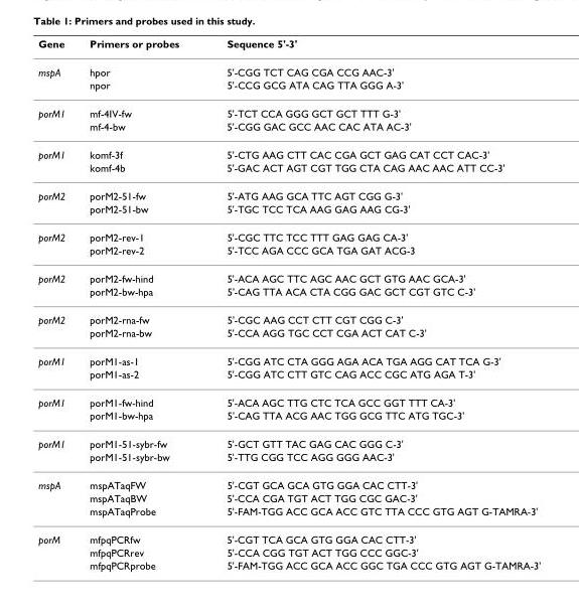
<table><thead><tr><td>Gene</td><td>Primers or probes</td><td>Sequence 5&#x27;-3&#x27;</td></tr></thead><tbody><tr><td rowspan="2">mspA</td><td>hpor</td><td>5&#x27;-CGG TCT CAG CGA CCG AAC-3&#x27;</td></tr><tr><td>npor</td><td>5&#x27;-CCG GCG ATA CAG TTA GGG A-3&#x27;</td></tr><tr><td rowspan="2">porM1</td><td>mf-4IV-fw</td><td>5&#x27;-TCT CCA GGG GCT GCT TTT G-3&#x27;</td></tr><tr><td>mf-4-bw</td><td>5&#x27;-CGG GAC GCC AAC CAC ATA AC-3&#x27;</td></tr><tr><td rowspan="2">porM1</td><td>komf-3f</td><td>5&#x27;-CTG AAG CTT CAC CGA GCT GAG CAT CCT CAC-3&#x27;</td></tr><tr><td>komf-4b</td><td>5&#x27;-GAC ACT AGT CGT TGG CTA CAG AAC AAC ATT CC-3&#x27;</td></tr><tr><td rowspan="2">porM2</td><td>porM2-51-fw</td><td>5&#x27;-ATG AAG GCA TTC AGT CGG G-3&#x27;</td></tr><tr><td>porM2-51-bw</td><td>5&#x27;-TGC TCC TCA AAG GAG AAG CG-3&#x27;</td></tr><tr><td rowspan="2">porM2</td><td>porM2-rev-1</td><td>5&#x27;-CGC TTC TCC TTT GAG GAG CA-3&#x27;</td></tr><tr><td>porM2-rev-2</td><td>5&#x27;-TCC AGA CCC GCA TGA GAT ACG-3</td></tr><tr><td rowspan="2">porM2</td><td>porM2-fw-hind</td><td>5&#x27;-ACA AGC TTC AGC AAC GCT GTG AAC GCA-3&#x27;</td></tr><tr><td>porM2-bw-hpa</td><td>5&#x27;-CAG TTA ACA CTA CGG GAC GCT CGT GTC C-3&#x27;</td></tr><tr><td rowspan="2">porM2</td><td>porM2-rna-fw</td><td>5&#x27;-CGC AAG CCT CTT CGT CGG C-3&#x27;</td></tr><tr><td>porM2-rna-bw</td><td>5&#x27;-CCA AGG TGC CCT CGA ACT CAT C-3&#x27;</td></tr><tr><td rowspan="2">porM1</td><td>porM1-as-1</td><td>5&#x27;-CGG ATC CTA GGG AGA ACA TGA AGG CAT TCA G-3&#x27;</td></tr><tr><td>porM1-as-2</td><td>5&#x27;-CGG ATC CTT GTC CAG ACC CGC ATG AGA T-3&#x27;</td></tr><tr><td rowspan="2">porM1</td><td>porM1-fw-hind</td><td>5&#x27;-ACA AGC TTG CTC TCA GCC GGT TTT CA-3&#x27;</td></tr><tr><td>porM1-bw-hpa</td><td>5&#x27;-CAG TTA ACG AAC TGG GCG TTC ATG TGC-3&#x27;</td></tr><tr><td rowspan="2">porM1</td><td>porM1-51-sybr-fw</td><td>5&#x27;-GCT GTT TAC GAG CAC GGG C-3&#x27;</td></tr><tr><td>porM1-51-sybr-bw</td><td>5&#x27;-TTG CGG TCC AGG GGG AAC-3&#x27;</td></tr><tr><td rowspan="3">mspA</td><td>mspATaqFW</td><td>5&#x27;-CGT GCA GCA GTG GGA CAC CTT-3&#x27;</td></tr><tr><td>mspATaqBW</td><td>5&#x27;-CCA CGA TGT ACT TGG CGC GAC-3&#x27;</td></tr><tr><td>mspATaqProbe</td><td>5&#x27;-FAM-TGG ACC GCA ACC GTC TTA CCC GTG AGT G-TAMRA-3&#x27;</td></tr><tr><td rowspan="3">porM</td><td>mfpqPCRfw</td><td>5&#x27;-CGT TCA GCA GTG GGA CAC CTT-3&#x27;</td></tr><tr><td>mfpqPCRrev</td><td>5&#x27;-CCA CGG TGT ACT TGG CCC GGC-3&#x27;</td></tr><tr><td>mfpqPCRprobe</td><td>5&#x27;-FAM-TGG ACC GCA ACC GGC TGA CCC GTG AGT G-TAMRA-3&#x27;</td></tr></tbody></table>